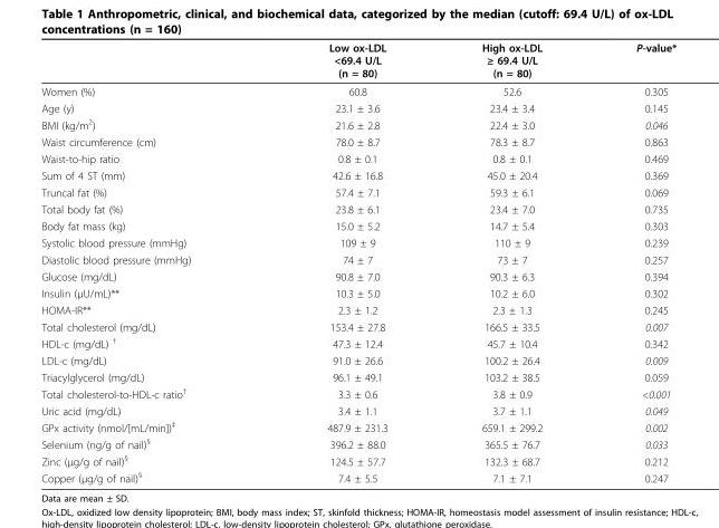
<table><thead><tr><td></td><td>Low ox-LDL &lt;69.4 U/L (n = 80)</td><td>High ox-LDL ≥ 69.4 U/L (n = 80)</td><td>P-value*</td></tr></thead><tbody><tr><td>Women (%)</td><td>60.8</td><td>52.6</td><td>0.305</td></tr><tr><td>Age (y)</td><td>23.1 ± 3.6</td><td>23.4 ± 3.4</td><td>0.145</td></tr><tr><td>BMI (kg/m<sup>2</sup>)</td><td>21.6 ± 2.8</td><td>22.4 ± 3.0</td><td>0.046</td></tr><tr><td>Waist circumference (cm)</td><td>78.0 ± 8.7</td><td>78.3 ± 8.7</td><td>0.863</td></tr><tr><td>Waist-to-hip ratio</td><td>0.8 ± 0.1</td><td>0.8 ± 0.1</td><td>0.469</td></tr><tr><td>Sum of 4 ST (mm)</td><td>42.6 ± 16.8</td><td>45.0 ± 20.4</td><td>0.369</td></tr><tr><td>Truncal fat (%)</td><td>57.4 ± 7.1</td><td>59.3 ± 6.1</td><td>0.069</td></tr><tr><td>Total body fat (%)</td><td>23.8 ± 6.1</td><td>23.4 ± 7.0</td><td>0.735</td></tr><tr><td>Body fat mass (kg)</td><td>15.0 ± 5.2</td><td>14.7 ± 5.4</td><td>0.303</td></tr><tr><td>Systolic blood pressure (mmHg)</td><td>109 ± 9</td><td>110 ± 9</td><td>0.239</td></tr><tr><td>Diastolic blood pressure (mmHg)</td><td>74 ± 7</td><td>73 ± 7</td><td>0.257</td></tr><tr><td>Glucose (mg/dL)</td><td>90.8 ± 7.0</td><td>90.3 ± 6.3</td><td>0.394</td></tr><tr><td>Insulin (μU/mL)**</td><td>10.3 ± 5.0</td><td>10.2 ± 6.0</td><td>0.302</td></tr><tr><td>HOMA-IR**</td><td>2.3 ± 1.2</td><td>2.3 ± 1.3</td><td>0.245</td></tr><tr><td>Total cholesterol (mg/dL)</td><td>153.4 ± 27.8</td><td>166.5 ± 33.5</td><td>0.007</td></tr><tr><td>HDL-c (mg/dL) <sup>†</sup></td><td>47.3 ± 12.4</td><td>45.7 ± 10.4</td><td>0.342</td></tr><tr><td>LDL-c (mg/dL)</td><td>91.0 ± 26.6</td><td>100.2 ± 26.4</td><td>0.009</td></tr><tr><td>Triacylglycerol (mg/dL)</td><td>96.1 ± 49.1</td><td>103.2 ± 38.5</td><td>0.059</td></tr><tr><td>Total cholesterol-to-HDL-c ratio<sup>†</sup></td><td>3.3 ± 0.6</td><td>3.8 ± 0.9</td><td>&lt;0.001</td></tr><tr><td>Uric acid (mg/dL)</td><td>3.4 ± 1.1</td><td>3.7 ± 1.1</td><td>0.049</td></tr><tr><td>GPx activity (nmol/[mL/min])<sup>‡</sup></td><td>487.9 ± 231.3</td><td>659.1 ± 299.2</td><td>0.002</td></tr><tr><td>Selenium (ng/g of nail)<sup>§</sup></td><td>396.2 ± 88.0</td><td>365.5 ± 76.7</td><td>0.033</td></tr><tr><td>Zinc (μg/g of nail)<sup>§</sup></td><td>124.5 ± 57.7</td><td>132.3 ± 68.7</td><td>0.212</td></tr><tr><td>Copper (μg/g of nail)<sup>§</sup></td><td>7.4 ± 5.5</td><td>7.1 ± 7.1</td><td>0.247</td></tr></tbody></table>